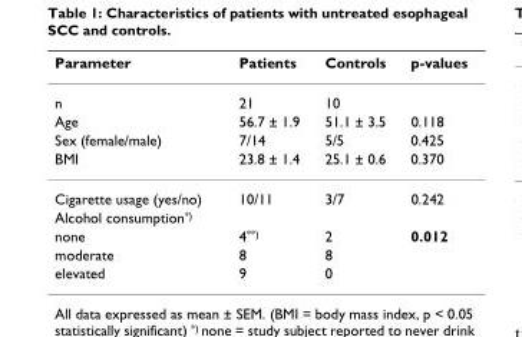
<table><thead><tr><td>Parameter</td><td>Patients</td><td>Controls</td><td>p-values</td></tr></thead><tbody><tr><td>n</td><td>21</td><td>10</td><td></td></tr><tr><td>Age</td><td>56.7 ± 1.9</td><td>51.1 ± 3.5</td><td>0.118</td></tr><tr><td>Sex (female/male)</td><td>7/14</td><td>5/5</td><td>0.425</td></tr><tr><td>BMI</td><td>23.8 ± 1.4</td><td>25.1 ± 0.6</td><td>0.370</td></tr><tr><td>Cigarette usage (yes/no)</td><td>10/11</td><td>3/7</td><td>0.242</td></tr><tr><td colspan="4">Alcohol consumption<sup>*)</sup></td></tr><tr><td>none</td><td>4<sup>**)</sup></td><td>2</td><td>0.012</td></tr><tr><td>moderate</td><td>8</td><td>8</td><td></td></tr><tr><td>elevated</td><td>9</td><td>0</td><td></td></tr></tbody></table>